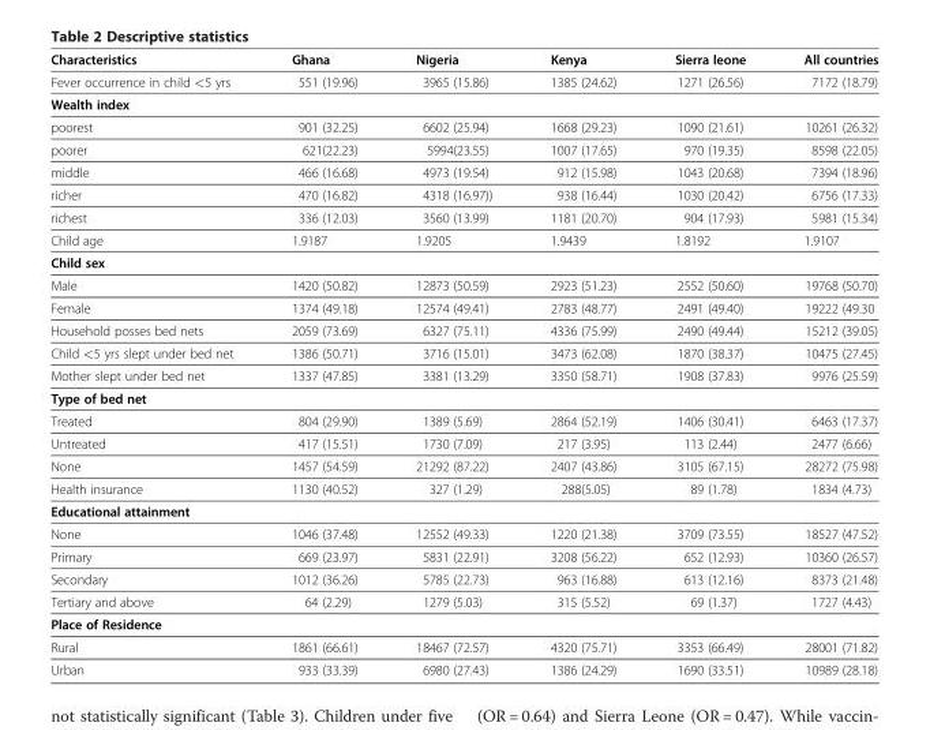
<table><thead><tr><td>Characteristics</td><td>Ghana</td><td>Nigeria</td><td>Kenya</td><td>Sierra leone</td><td>All countries</td></tr></thead><tbody><tr><td>Fever occurrence in child &lt;5 yrs</td><td>551 (19.96)</td><td>3965 (15.86)</td><td>1385 (24.62)</td><td>1271 (26.56)</td><td>7172 (18.79)</td></tr><tr><td colspan="6">Wealth index</td></tr><tr><td>poorest</td><td>901 (32.25)</td><td>6602 (25.94)</td><td>1668 (29.23)</td><td>1090 (21.61)</td><td>10261 (26.32)</td></tr><tr><td>poorer</td><td>621(22.23)</td><td>5994(23.55)</td><td>1007 (17.65)</td><td>970 (19.35)</td><td>8598 (22.05)</td></tr><tr><td>middle</td><td>466 (16.68)</td><td>4973 (19.54)</td><td>912 (15.98)</td><td>1043 (20.68)</td><td>7394 (18.96)</td></tr><tr><td>richer</td><td>470 (16.82)</td><td>4318 (16.97))</td><td>938 (16.44)</td><td>1030 (20.42)</td><td>6756 (17.33)</td></tr><tr><td>richest</td><td>336 (12.03)</td><td>3560 (13.99)</td><td>1181 (20.70)</td><td>904 (17.93)</td><td>5981 (15.34)</td></tr><tr><td>Child age</td><td>1.9187</td><td>1.9205</td><td>1.9439</td><td>1.8192</td><td>1.9107</td></tr><tr><td colspan="6">Child sex</td></tr><tr><td>Male</td><td>1420 (50.82)</td><td>12873 (50.59)</td><td>2923 (51.23)</td><td>2552 (50.60)</td><td>19768 (50.70)</td></tr><tr><td>Female</td><td>1374 (49.18)</td><td>12574 (49.41)</td><td>2783 (48.77)</td><td>2491 (49.40)</td><td>19222 (49.30</td></tr><tr><td>Household posses bed nets</td><td>2059 (73.69)</td><td>6327 (75.11)</td><td>4336 (75.99)</td><td>2490 (49.44)</td><td>15212 (39.05)</td></tr><tr><td>Child &lt;5 yrs slept under bed net</td><td>1386 (50.71)</td><td>3716 (15.01)</td><td>3473 (62.08)</td><td>1870 (38.37)</td><td>10475 (27.45)</td></tr><tr><td>Mother slept under bed net</td><td>1337 (47.85)</td><td>3381 (13.29)</td><td>3350 (58.71)</td><td>1908 (37.83)</td><td>9976 (25.59)</td></tr><tr><td colspan="6">Type of bed net</td></tr><tr><td>Treated</td><td>804 (29.90)</td><td>1389 (5.69)</td><td>2864 (52.19)</td><td>1406 (30.41)</td><td>6463 (17.37)</td></tr><tr><td>Untreated</td><td>417 (15.51)</td><td>1730 (7.09)</td><td>217 (3.95)</td><td>113 (2.44)</td><td>2477 (6.66)</td></tr><tr><td>None</td><td>1457 (54.59)</td><td>21292 (87.22)</td><td>2407 (43.86)</td><td>3105 (67.15)</td><td>28272 (75.98)</td></tr><tr><td>Health insurance</td><td>1130 (40.52)</td><td>327 (1.29)</td><td>288(5.05)</td><td>89 (1.78)</td><td>1834 (4.73)</td></tr><tr><td colspan="6">Educational attainment</td></tr><tr><td>None</td><td>1046 (37.48)</td><td>12552 (49.33)</td><td>1220 (21.38)</td><td>3709 (73.55)</td><td>18527 (47.52)</td></tr><tr><td>Primary</td><td>669 (23.97)</td><td>5831 (22.91)</td><td>3208 (56.22)</td><td>652 (12.93)</td><td>10360 (26.57)</td></tr><tr><td>Secondary</td><td>1012 (36.26)</td><td>5785 (22.73)</td><td>963 (16.88)</td><td>613 (12.16)</td><td>8373 (21.48)</td></tr><tr><td>Tertiary and above</td><td>64 (2.29)</td><td>1279 (5.03)</td><td>315 (5.52)</td><td>69 (1.37)</td><td>1727 (4.43)</td></tr><tr><td colspan="6">Place of Residence</td></tr><tr><td>Rural</td><td>1861 (66.61)</td><td>18467 (72.57)</td><td>4320 (75.71)</td><td>3353 (66.49)</td><td>28001 (71.82)</td></tr><tr><td>Urban</td><td>933 (33.39)</td><td>6980 (27.43)</td><td>1386 (24.29)</td><td>1690 (33.51)</td><td>10989 (28.18)</td></tr></tbody></table>